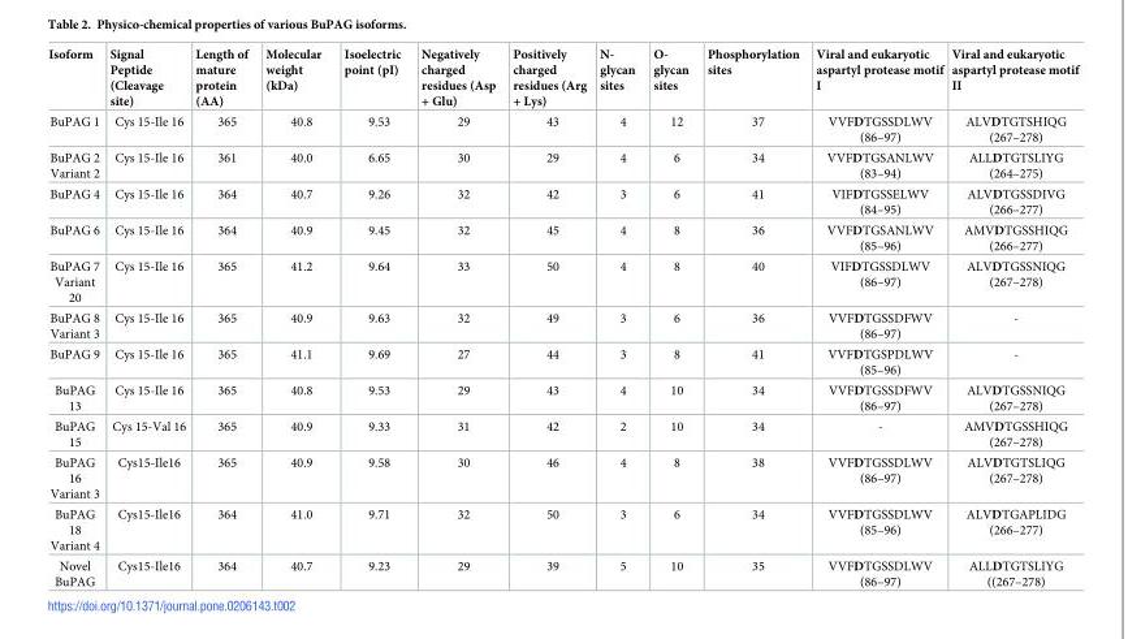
<table><thead><tr><td>Isoform</td><td>Signal Peptide (Cleavage site)</td><td>Length of mature protein (AA)</td><td>Molecular weight (kDa)</td><td>Isoelectric point (pI)</td><td>Negatively charged residues (Asp + Glu)</td><td>Positively charged residues (Arg + Lys)</td><td>N- glycan sites</td><td>O- glycan sites</td><td>Phosphorylation sites</td><td>Viral and eukaryotic aspartyl protease motif I</td><td>Viral and eukaryotic aspartyl protease motif II</td></tr></thead><tbody><tr><td>BuPAG 1</td><td>Cys 15-Ile 16</td><td>365</td><td>40.8</td><td>9.53</td><td>29</td><td>43</td><td>4</td><td>12</td><td>37</td><td>VVFDTGSSDLWV (86–97)</td><td>ALVDTGTSHIQG (267–278)</td></tr><tr><td>BuPAG 2 Variant 2</td><td>Cys 15-Ile 16</td><td>361</td><td>40.0</td><td>6.65</td><td>30</td><td>29</td><td>4</td><td>6</td><td>34</td><td>VVFDTGSANLWV (83–94)</td><td>ALLDTGTSLIYG (264–275)</td></tr><tr><td>BuPAG 4</td><td>Cys 15-Ile 16</td><td>364</td><td>40.7</td><td>9.26</td><td>32</td><td>42</td><td>3</td><td>6</td><td>41</td><td>VIFDTGSSELWV (84–95)</td><td>ALVDTGSSDIVG (266–277)</td></tr><tr><td>BuPAG 6</td><td>Cys 15-Ile 16</td><td>364</td><td>40.9</td><td>9.45</td><td>32</td><td>45</td><td>4</td><td>8</td><td>36</td><td>VVFDTGSANLWV (85–96)</td><td>AMVDTGSSHIQG (266–277)</td></tr><tr><td>BuPAG 7 Variant 20</td><td>Cys 15-Ile 16</td><td>365</td><td>41.2</td><td>9.64</td><td>33</td><td>50</td><td>4</td><td>8</td><td>40</td><td>VIFDTGSSDLWV (86–97)</td><td>ALVDTGSSNIQG (267–278)</td></tr><tr><td>BuPAG 8 Variant 3</td><td>Cys 15-Ile 16</td><td>365</td><td>40.9</td><td>9.63</td><td>32</td><td>49</td><td>3</td><td>6</td><td>36</td><td>VVFDTGSSDFWV (86–97)</td><td>-</td></tr><tr><td>BuPAG 9</td><td>Cys 15-Ile 16</td><td>365</td><td>41.1</td><td>9.69</td><td>27</td><td>44</td><td>3</td><td>8</td><td>41</td><td>VVFDTGSPDLWV (85–96)</td><td>-</td></tr><tr><td>BuPAG 13</td><td>Cys 15-Ile 16</td><td>365</td><td>40.8</td><td>9.53</td><td>29</td><td>43</td><td>4</td><td>10</td><td>34</td><td>VVFDTGSSDFWV (86–97)</td><td>ALVDTGSSNIQG (267–278)</td></tr><tr><td>BuPAG 15</td><td>Cys 15-Val 16</td><td>365</td><td>40.9</td><td>9.33</td><td>31</td><td>42</td><td>2</td><td>10</td><td>34</td><td>-</td><td>AMVDTGSSHIQG (267–278)</td></tr><tr><td>BuPAG 16 Variant 3</td><td>Cys15-Ile16</td><td>365</td><td>40.9</td><td>9.58</td><td>30</td><td>46</td><td>4</td><td>8</td><td>38</td><td>VVFDTGSSDLWV (86–97)</td><td>ALVDTGTSLIQG (267–278)</td></tr><tr><td>BuPAG 18 Variant 4</td><td>Cys15-Ile16</td><td>364</td><td>41.0</td><td>9.71</td><td>32</td><td>50</td><td>3</td><td>6</td><td>34</td><td>VVFDTGSSDLWV (85–96)</td><td>ALVDTGAPLIDG (266–277)</td></tr><tr><td>Novel BuPAG</td><td>Cys15-Ile16</td><td>364</td><td>40.7</td><td>9.23</td><td>29</td><td>39</td><td>5</td><td>10</td><td>35</td><td>VVFDTGSSDLWV (86–97)</td><td>ALLDTGTSLIYG ((267–278)</td></tr></tbody></table>